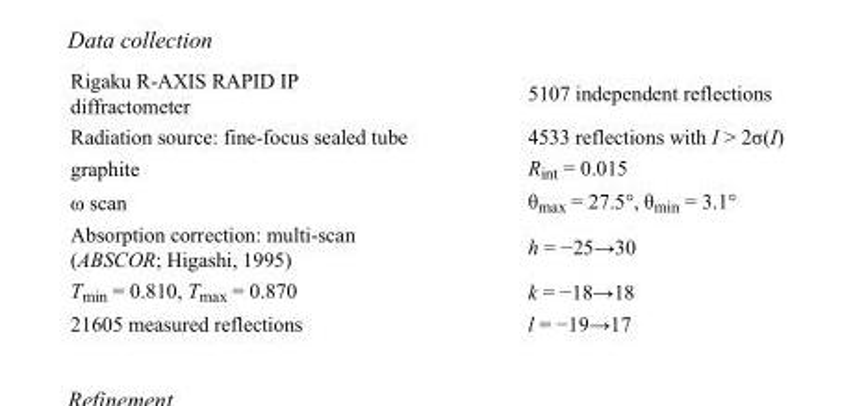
<table><tbody><tr><td>Rigaku R-AXIS RAPID IP diffractometer</td><td>5107 independent reflections</td></tr><tr><td>Radiation source: fine-focus sealed tube</td><td>4533 reflections with I &gt; 2σ(I)</td></tr><tr><td>graphite</td><td>R<sub>int</sub> = 0.015</td></tr><tr><td>ω scan</td><td>θ<sub>max</sub> = 27.5°, θ<sub>min</sub> = 3.1°</td></tr><tr><td>Absorption correction: multi-scan (ABSCOR; Higashi, 1995)</td><td>h = −25→30</td></tr><tr><td>T<sub>min</sub> = 0.810, T<sub>max</sub> = 0.870</td><td>k = −18→18</td></tr><tr><td>21605 measured reflections</td><td>l = −19→17</td></tr></tbody></table>